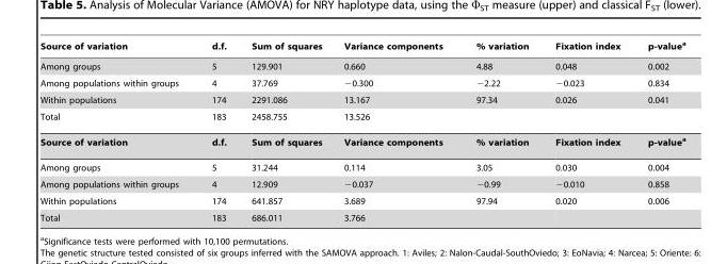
<table><thead><tr><td>Source of variation</td><td>d.f.</td><td>Sum of squares</td><td>Variance components</td><td>% variation</td><td>Fixation index</td><td>p-value<sup>a</sup></td></tr></thead><tbody><tr><td>Among groups</td><td>5</td><td>129.901</td><td>0.660</td><td>4.88</td><td>0.048</td><td>0.002</td></tr><tr><td>Among populations within groups</td><td>4</td><td>37.769</td><td>−0.300</td><td>−2.22</td><td>−0.023</td><td>0.834</td></tr><tr><td>Within populations</td><td>174</td><td>2291.086</td><td>13.167</td><td>97.34</td><td>0.026</td><td>0.041</td></tr><tr><td>Total</td><td>183</td><td>2458.755</td><td>13.526</td><td></td><td></td><td></td></tr><tr><td>Source of variation</td><td>d.f.</td><td>Sum of squares</td><td>Variance components</td><td>% variation</td><td>Fixation index</td><td>p-valuea</td></tr><tr><td>Among groups</td><td>5</td><td>31.244</td><td>0.114</td><td>3.05</td><td>0.030</td><td>0.004</td></tr><tr><td>Among populations within groups</td><td>4</td><td>12.909</td><td>−0.037</td><td>−0.99</td><td>−0.010</td><td>0.858</td></tr><tr><td>Within populations</td><td>174</td><td>641.857</td><td>3.689</td><td>97.94</td><td>0.020</td><td>0.006</td></tr><tr><td>Total</td><td>183</td><td>686.011</td><td>3.766</td><td></td><td></td><td></td></tr></tbody></table>